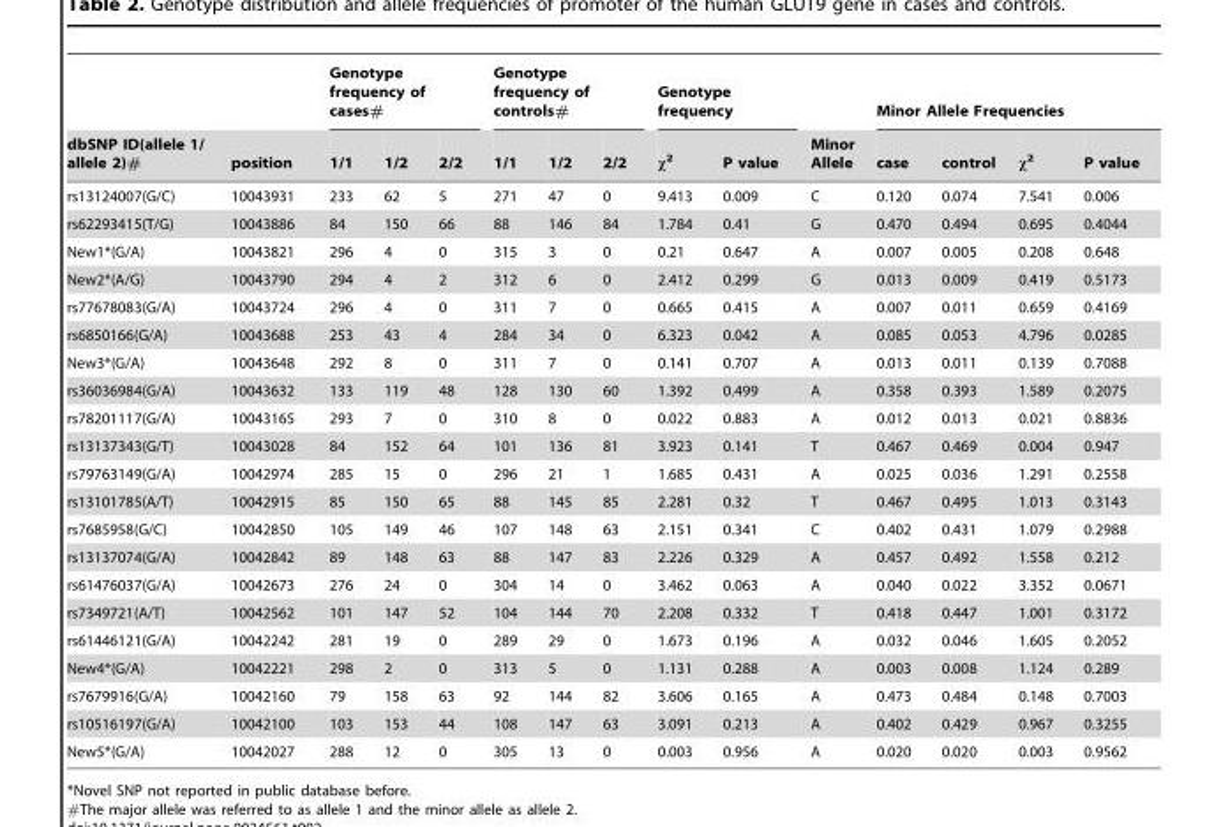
<table><thead><tr><td rowspan="2">dbSNP ID(allele 1/ allele 2)#</td><td rowspan="2">position</td><td colspan="3">Genotype frequency of cases#</td><td colspan="3">Genotype frequency of controls#</td><td colspan="2">Genotype frequency</td><td rowspan="2">Minor Allele</td><td colspan="4">Minor Allele Frequencies</td></tr><tr><td>1/1</td><td>1/2</td><td>2/2</td><td>1/1</td><td>1/2</td><td>2/2</td><td>χ<sup>2</sup></td><td>P value</td><td>case</td><td>control</td><td>χ<sup>2</sup></td><td>P value</td></tr></thead><tbody><tr><td>rs13124007(G/C)</td><td>10043931</td><td>233</td><td>62</td><td>5</td><td>271</td><td>47</td><td>0</td><td>9.413</td><td>0.009</td><td>C</td><td>0.120</td><td>0.074</td><td>7.541</td><td>0.006</td></tr><tr><td>rs62293415(T/G)</td><td>10043886</td><td>84</td><td>150</td><td>66</td><td>88</td><td>146</td><td>84</td><td>1.784</td><td>0.41</td><td>G</td><td>0.470</td><td>0.494</td><td>0.695</td><td>0.4044</td></tr><tr><td>New1*(G/A)</td><td>10043821</td><td>296</td><td>4</td><td>0</td><td>315</td><td>3</td><td>0</td><td>0.21</td><td>0.647</td><td>A</td><td>0.007</td><td>0.005</td><td>0.208</td><td>0.648</td></tr><tr><td>New2*(A/G)</td><td>10043790</td><td>294</td><td>4</td><td>2</td><td>312</td><td>6</td><td>0</td><td>2.412</td><td>0.299</td><td>G</td><td>0.013</td><td>0.009</td><td>0.419</td><td>0.5173</td></tr><tr><td>rs77678083(G/A)</td><td>10043724</td><td>296</td><td>4</td><td>0</td><td>311</td><td>7</td><td>0</td><td>0.665</td><td>0.415</td><td>A</td><td>0.007</td><td>0.011</td><td>0.659</td><td>0.4169</td></tr><tr><td>rs6850166(G/A)</td><td>10043688</td><td>253</td><td>43</td><td>4</td><td>284</td><td>34</td><td>0</td><td>6.323</td><td>0.042</td><td>A</td><td>0.085</td><td>0.053</td><td>4.796</td><td>0.0285</td></tr><tr><td>New3*(G/A)</td><td>10043648</td><td>292</td><td>8</td><td>0</td><td>311</td><td>7</td><td>0</td><td>0.141</td><td>0.707</td><td>A</td><td>0.013</td><td>0.011</td><td>0.139</td><td>0.7088</td></tr><tr><td>rs36036984(G/A)</td><td>10043632</td><td>133</td><td>119</td><td>48</td><td>128</td><td>130</td><td>60</td><td>1.392</td><td>0.499</td><td>A</td><td>0.358</td><td>0.393</td><td>1.589</td><td>0.2075</td></tr><tr><td>rs78201117(G/A)</td><td>10043165</td><td>293</td><td>7</td><td>0</td><td>310</td><td>8</td><td>0</td><td>0.022</td><td>0.883</td><td>A</td><td>0.012</td><td>0.013</td><td>0.021</td><td>0.8836</td></tr><tr><td>rs13137343(G/T)</td><td>10043028</td><td>84</td><td>152</td><td>64</td><td>101</td><td>136</td><td>81</td><td>3.923</td><td>0.141</td><td>T</td><td>0.467</td><td>0.469</td><td>0.004</td><td>0.947</td></tr><tr><td>rs79763149(G/A)</td><td>10042974</td><td>285</td><td>15</td><td>0</td><td>296</td><td>21</td><td>1</td><td>1.685</td><td>0.431</td><td>A</td><td>0.025</td><td>0.036</td><td>1.291</td><td>0.2558</td></tr><tr><td>rs13101785(A/T)</td><td>10042915</td><td>85</td><td>150</td><td>65</td><td>88</td><td>145</td><td>85</td><td>2.281</td><td>0.32</td><td>T</td><td>0.467</td><td>0.495</td><td>1.013</td><td>0.3143</td></tr><tr><td>rs7685958(G/C)</td><td>10042850</td><td>105</td><td>149</td><td>46</td><td>107</td><td>148</td><td>63</td><td>2.151</td><td>0.341</td><td>C</td><td>0.402</td><td>0.431</td><td>1.079</td><td>0.2988</td></tr><tr><td>rs13137074(G/A)</td><td>10042842</td><td>89</td><td>148</td><td>63</td><td>88</td><td>147</td><td>83</td><td>2.226</td><td>0.329</td><td>A</td><td>0.457</td><td>0.492</td><td>1.558</td><td>0.212</td></tr><tr><td>rs61476037(G/A)</td><td>10042673</td><td>276</td><td>24</td><td>0</td><td>304</td><td>14</td><td>0</td><td>3.462</td><td>0.063</td><td>A</td><td>0.040</td><td>0.022</td><td>3.352</td><td>0.0671</td></tr><tr><td>rs7349721(A/T)</td><td>10042562</td><td>101</td><td>147</td><td>52</td><td>104</td><td>144</td><td>70</td><td>2.208</td><td>0.332</td><td>T</td><td>0.418</td><td>0.447</td><td>1.001</td><td>0.3172</td></tr><tr><td>rs61446121(G/A)</td><td>10042242</td><td>281</td><td>19</td><td>0</td><td>289</td><td>29</td><td>0</td><td>1.673</td><td>0.196</td><td>A</td><td>0.032</td><td>0.046</td><td>1.605</td><td>0.2052</td></tr><tr><td>New4*(G/A)</td><td>10042221</td><td>298</td><td>2</td><td>0</td><td>313</td><td>5</td><td>0</td><td>1.131</td><td>0.288</td><td>A</td><td>0.003</td><td>0.008</td><td>1.124</td><td>0.289</td></tr><tr><td>rs7679916(G/A)</td><td>10042160</td><td>79</td><td>158</td><td>63</td><td>92</td><td>144</td><td>82</td><td>3.606</td><td>0.165</td><td>A</td><td>0.473</td><td>0.484</td><td>0.148</td><td>0.7003</td></tr><tr><td>rs10516197(G/A)</td><td>10042100</td><td>103</td><td>153</td><td>44</td><td>108</td><td>147</td><td>63</td><td>3.091</td><td>0.213</td><td>A</td><td>0.402</td><td>0.429</td><td>0.967</td><td>0.3255</td></tr><tr><td>New5*(G/A)</td><td>10042027</td><td>288</td><td>12</td><td>0</td><td>305</td><td>13</td><td>0</td><td>0.003</td><td>0.956</td><td>A</td><td>0.020</td><td>0.020</td><td>0.003</td><td>0.9562</td></tr></tbody></table>